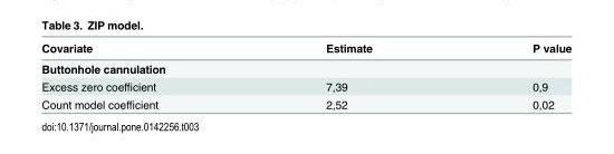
<table><thead><tr><td>Covariate</td><td>Estimate</td><td>P value</td></tr></thead><tbody><tr><td colspan="3">Buttonhole cannulation</td></tr><tr><td>Excess zero coefficient</td><td>7,39</td><td>0,9</td></tr><tr><td>Count model coefficient</td><td>2,52</td><td>0,02</td></tr></tbody></table>